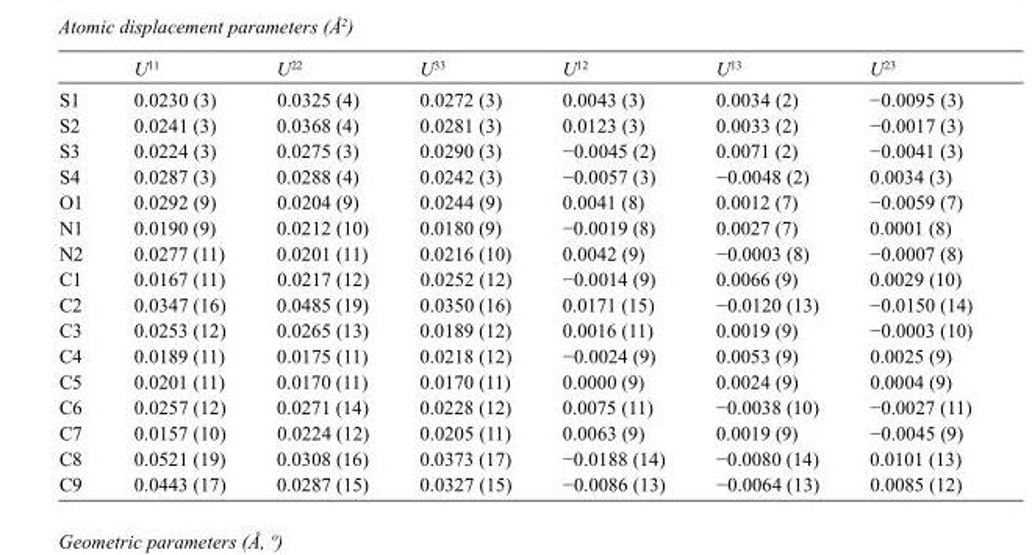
<table><thead><tr><td></td><td>U<sup>11</sup></td><td>U<sup>22</sup></td><td>U<sup>33</sup></td><td>U<sup>12</sup></td><td>U<sup>13</sup></td><td>U<sup>23</sup></td></tr></thead><tbody><tr><td>S1</td><td>0.0230 (3)</td><td>0.0325 (4)</td><td>0.0272 (3)</td><td>0.0043 (3)</td><td>0.0034 (2)</td><td>−0.0095 (3)</td></tr><tr><td>S2</td><td>0.0241 (3)</td><td>0.0368 (4)</td><td>0.0281 (3)</td><td>0.0123 (3)</td><td>0.0033 (2)</td><td>−0.0017 (3)</td></tr><tr><td>S3</td><td>0.0224 (3)</td><td>0.0275 (3)</td><td>0.0290 (3)</td><td>−0.0045 (2)</td><td>0.0071 (2)</td><td>−0.0041 (3)</td></tr><tr><td>S4</td><td>0.0287 (3)</td><td>0.0288 (4)</td><td>0.0242 (3)</td><td>−0.0057 (3)</td><td>−0.0048 (2)</td><td>0.0034 (3)</td></tr><tr><td>O1</td><td>0.0292 (9)</td><td>0.0204 (9)</td><td>0.0244 (9)</td><td>0.0041 (8)</td><td>0.0012 (7)</td><td>−0.0059 (7)</td></tr><tr><td>N1</td><td>0.0190 (9)</td><td>0.0212 (10)</td><td>0.0180 (9)</td><td>−0.0019 (8)</td><td>0.0027 (7)</td><td>0.0001 (8)</td></tr><tr><td>N2</td><td>0.0277 (11)</td><td>0.0201 (11)</td><td>0.0216 (10)</td><td>0.0042 (9)</td><td>−0.0003 (8)</td><td>−0.0007 (8)</td></tr><tr><td>C1</td><td>0.0167 (11)</td><td>0.0217 (12)</td><td>0.0252 (12)</td><td>−0.0014 (9)</td><td>0.0066 (9)</td><td>0.0029 (10)</td></tr><tr><td>C2</td><td>0.0347 (16)</td><td>0.0485 (19)</td><td>0.0350 (16)</td><td>0.0171 (15)</td><td>−0.0120 (13)</td><td>−0.0150 (14)</td></tr><tr><td>C3</td><td>0.0253 (12)</td><td>0.0265 (13)</td><td>0.0189 (12)</td><td>0.0016 (11)</td><td>0.0019 (9)</td><td>−0.0003 (10)</td></tr><tr><td>C4</td><td>0.0189 (11)</td><td>0.0175 (11)</td><td>0.0218 (12)</td><td>−0.0024 (9)</td><td>0.0053 (9)</td><td>0.0025 (9)</td></tr><tr><td>C5</td><td>0.0201 (11)</td><td>0.0170 (11)</td><td>0.0170 (11)</td><td>0.0000 (9)</td><td>0.0024 (9)</td><td>0.0004 (9)</td></tr><tr><td>C6</td><td>0.0257 (12)</td><td>0.0271 (14)</td><td>0.0228 (12)</td><td>0.0075 (11)</td><td>−0.0038 (10)</td><td>−0.0027 (11)</td></tr><tr><td>C7</td><td>0.0157 (10)</td><td>0.0224 (12)</td><td>0.0205 (11)</td><td>0.0063 (9)</td><td>0.0019 (9)</td><td>−0.0045 (9)</td></tr><tr><td>C8</td><td>0.0521 (19)</td><td>0.0308 (16)</td><td>0.0373 (17)</td><td>−0.0188 (14)</td><td>−0.0080 (14)</td><td>0.0101 (13)</td></tr><tr><td>C9</td><td>0.0443 (17)</td><td>0.0287 (15)</td><td>0.0327 (15)</td><td>−0.0086 (13)</td><td>−0.0064 (13)</td><td>0.0085 (12)</td></tr></tbody></table>